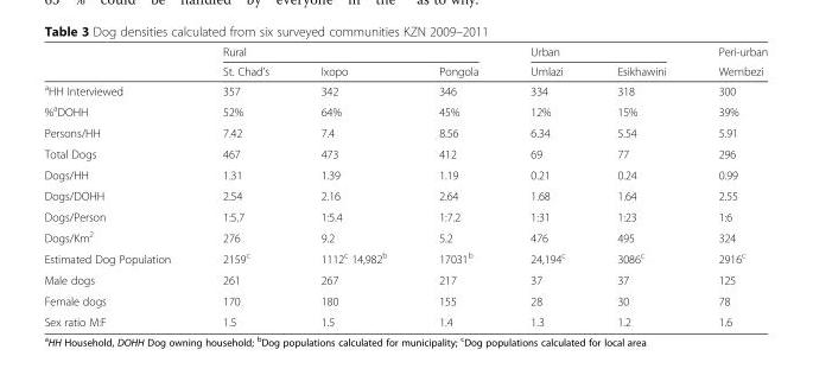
<table><thead><tr><td rowspan="2"></td><td colspan="3">Rural</td><td colspan="2">Urban</td><td rowspan="2">Peri-urban Wembezi</td></tr><tr><td>St. Chad’s</td><td>Ixopo</td><td>Pongola</td><td>Umlazi</td><td>Esikhawini</td></tr></thead><tbody><tr><td><sup>a</sup>HH Interviewed</td><td>357</td><td>342</td><td>346</td><td>334</td><td>318</td><td>300</td></tr><tr><td>%<sup>a</sup>DOHH</td><td>52%</td><td>64%</td><td>45%</td><td>12%</td><td>15%</td><td>39%</td></tr><tr><td>Persons/HH</td><td>7.42</td><td>7.4</td><td>8.56</td><td>6.34</td><td>5.54</td><td>5.91</td></tr><tr><td>Total Dogs</td><td>467</td><td>473</td><td>412</td><td>69</td><td>77</td><td>296</td></tr><tr><td>Dogs/HH</td><td>1.31</td><td>1.39</td><td>1.19</td><td>0.21</td><td>0.24</td><td>0.99</td></tr><tr><td>Dogs/DOHH</td><td>2.54</td><td>2.16</td><td>2.64</td><td>1.68</td><td>1.64</td><td>2.55</td></tr><tr><td>Dogs/Person</td><td>1:5.7</td><td>1:5.4</td><td>1:7.2</td><td>1:31</td><td>1:23</td><td>1:6</td></tr><tr><td>Dogs/Km<sup>2</sup></td><td>276</td><td>9.2</td><td>5.2</td><td>476</td><td>495</td><td>324</td></tr><tr><td>Estimated Dog Population</td><td>2159<sup>c</sup></td><td>1112<sup>c</sup> 14,982<sup>b</sup></td><td>17031<sup>b</sup></td><td>24,194<sup>c</sup></td><td>3086<sup>c</sup></td><td>2916<sup>c</sup></td></tr><tr><td>Male dogs</td><td>261</td><td>267</td><td>217</td><td>37</td><td>37</td><td>125</td></tr><tr><td>Female dogs</td><td>170</td><td>180</td><td>155</td><td>28</td><td>30</td><td>78</td></tr><tr><td>Sex ratio M:F</td><td>1.5</td><td>1.5</td><td>1.4</td><td>1.3</td><td>1.2</td><td>1.6</td></tr></tbody></table>